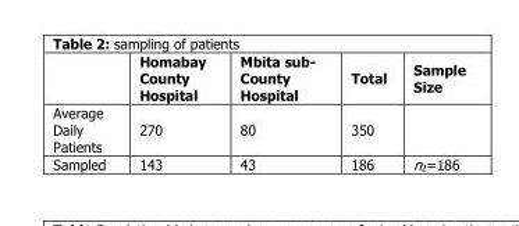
<table><thead><tr><td></td><td>Homabay County Hospital</td><td>Mbita sub- County Hospital</td><td>Total</td><td>Sample Size</td></tr></thead><tbody><tr><td>Average Daily Patients</td><td>270</td><td>80</td><td>350</td><td></td></tr><tr><td>Sampled</td><td>143</td><td>43</td><td>186</td><td>n<sub>2</sub>=186</td></tr></tbody></table>